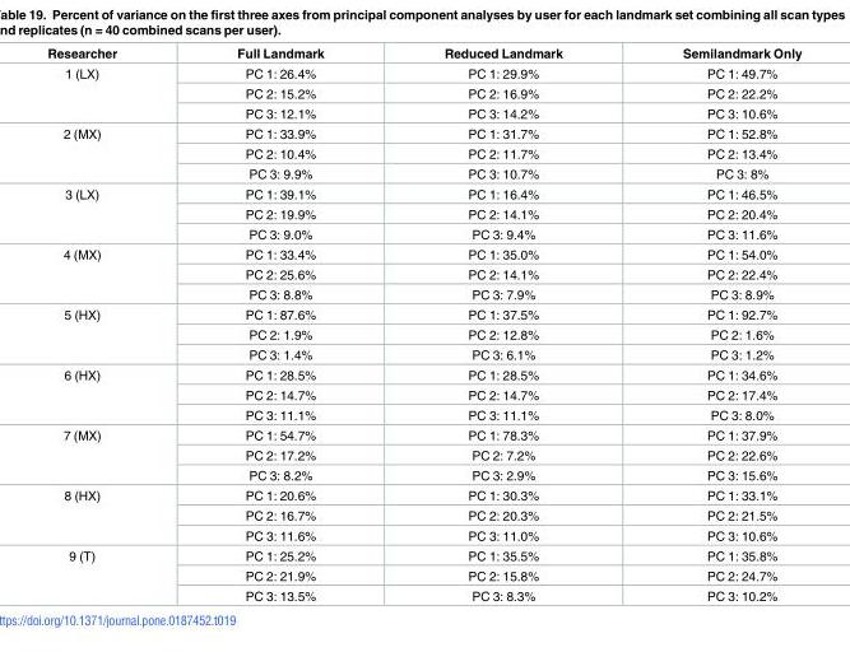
<table><thead><tr><td>Researcher</td><td>Full Landmark</td><td>Reduced Landmark</td><td>Semilandmark Only</td></tr></thead><tbody><tr><td rowspan="3">1 (LX)</td><td>PC 1: 26.4%</td><td>PC 1: 29.9%</td><td>PC 1: 49.7%</td></tr><tr><td>PC 2: 15.2%</td><td>PC 2: 16.9%</td><td>PC 2: 22.2%</td></tr><tr><td>PC 3: 12.1%</td><td>PC 3: 14.2%</td><td>PC 3: 10.6%</td></tr><tr><td rowspan="3">2 (MX)</td><td>PC 1: 33.9%</td><td>PC 1: 31.7%</td><td>PC 1: 52.8%</td></tr><tr><td>PC 2: 10.4%</td><td>PC 2: 11.7%</td><td>PC 2: 13.4%</td></tr><tr><td>PC 3: 9.9%</td><td>PC 3: 10.7%</td><td>PC 3: 8%</td></tr><tr><td rowspan="3">3 (LX)</td><td>PC 1: 39.1%</td><td>PC 1: 16.4%</td><td>PC 1: 46.5%</td></tr><tr><td>PC 2: 19.9%</td><td>PC 2: 14.1%</td><td>PC 2: 20.4%</td></tr><tr><td>PC 3: 9.0%</td><td>PC 3: 9.4%</td><td>PC 3: 11.6%</td></tr><tr><td rowspan="3">4 (MX)</td><td>PC 1: 33.4%</td><td>PC 1: 35.0%</td><td>PC 1: 54.0%</td></tr><tr><td>PC 2: 25.6%</td><td>PC 2: 14.1%</td><td>PC 2: 22.4%</td></tr><tr><td>PC 3: 8.8%</td><td>PC 3: 7.9%</td><td>PC 3: 8.9%</td></tr><tr><td rowspan="3">5 (HX)</td><td>PC 1: 87.6%</td><td>PC 1: 37.5%</td><td>PC 1: 92.7%</td></tr><tr><td>PC 2: 1.9%</td><td>PC 2: 12.8%</td><td>PC 2: 1.6%</td></tr><tr><td>PC 3: 1.4%</td><td>PC 3: 6.1%</td><td>PC 3: 1.2%</td></tr><tr><td rowspan="3">6 (HX)</td><td>PC 1: 28.5%</td><td>PC 1: 28.5%</td><td>PC 1: 34.6%</td></tr><tr><td>PC 2: 14.7%</td><td>PC 2: 14.7%</td><td>PC 2: 17.4%</td></tr><tr><td>PC 3: 11.1%</td><td>PC 3: 11.1%</td><td>PC 3: 8.0%</td></tr><tr><td rowspan="3">7 (MX)</td><td>PC 1: 54.7%</td><td>PC 1: 78.3%</td><td>PC 1: 37.9%</td></tr><tr><td>PC 2: 17.2%</td><td>PC 2: 7.2%</td><td>PC 2: 22.6%</td></tr><tr><td>PC 3: 8.2%</td><td>PC 3: 2.9%</td><td>PC 3: 15.6%</td></tr><tr><td rowspan="3">8 (HX)</td><td>PC 1: 20.6%</td><td>PC 1: 30.3%</td><td>PC 1: 33.1%</td></tr><tr><td>PC 2: 16.7%</td><td>PC 2: 20.3%</td><td>PC 2: 21.5%</td></tr><tr><td>PC 3: 11.6%</td><td>PC 3: 11.0%</td><td>PC 3: 10.6%</td></tr><tr><td rowspan="3">9 (T)</td><td>PC 1: 25.2%</td><td>PC 1: 35.5%</td><td>PC 1: 35.8%</td></tr><tr><td>PC 2: 21.9%</td><td>PC 2: 15.8%</td><td>PC 2: 24.7%</td></tr><tr><td>PC 3: 13.5%</td><td>PC 3: 8.3%</td><td>PC 3: 10.2%</td></tr></tbody></table>